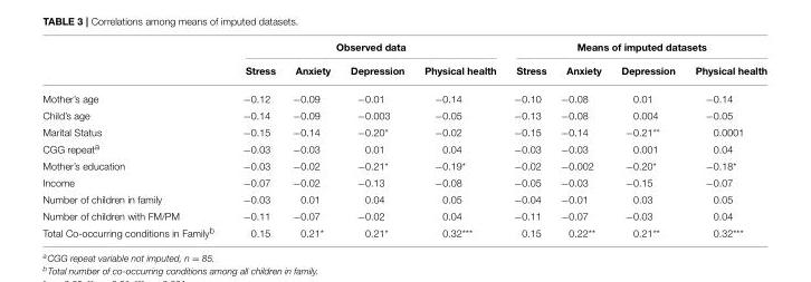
<table><thead><tr><td rowspan="2"></td><td colspan="4">Observed data</td><td colspan="4">Means of imputed datasets</td></tr><tr><td>Stress</td><td>Anxiety</td><td>Depression</td><td>Physical health</td><td>Stress</td><td>Anxiety</td><td>Depression</td><td>Physical health</td></tr></thead><tbody><tr><td>Mother’s age</td><td>−0.12</td><td>−0.09</td><td>−0.01</td><td>−0.14</td><td>−0.10</td><td>−0.08</td><td>0.01</td><td>−0.14</td></tr><tr><td>Child’s age</td><td>−0.14</td><td>−0.09</td><td>−0.003</td><td>−0.05</td><td>−0.13</td><td>−0.08</td><td>0.004</td><td>−0.05</td></tr><tr><td>Marital Status</td><td>−0.15</td><td>−0.14</td><td>−0.20*</td><td>−0.02</td><td>−0.15</td><td>−0.14</td><td>−0.21**</td><td>0.0001</td></tr><tr><td>CGG repeat<sup>a</sup></td><td>−0.03</td><td>−0.03</td><td>0.01</td><td>0.04</td><td>−0.03</td><td>−0.03</td><td>0.001</td><td>0.04</td></tr><tr><td>Mother’s education</td><td>−0.03</td><td>−0.02</td><td>−0.21*</td><td>−0.19*</td><td>−0.02</td><td>−0.002</td><td>−0.20*</td><td>−0.18*</td></tr><tr><td>Income</td><td>−0.07</td><td>−0.02</td><td>−0.13</td><td>−0.08</td><td>−0.05</td><td>−0.03</td><td>−0.15</td><td>−0.07</td></tr><tr><td>Number of children in family</td><td>−0.03</td><td>0.01</td><td>0.04</td><td>0.05</td><td>−0.04</td><td>−0.01</td><td>0.03</td><td>0.05</td></tr><tr><td>Number of children with FM/PM</td><td>−0.11</td><td>−0.07</td><td>−0.02</td><td>0.04</td><td>−0.11</td><td>−0.07</td><td>−0.03</td><td>0.04</td></tr><tr><td>Total Co-occurring conditions in Family<sup>b</sup></td><td>0.15</td><td>0.21*</td><td>0.21*</td><td>0.32***</td><td>0.15</td><td>0.22**</td><td>0.21**</td><td>0.32***</td></tr></tbody></table>